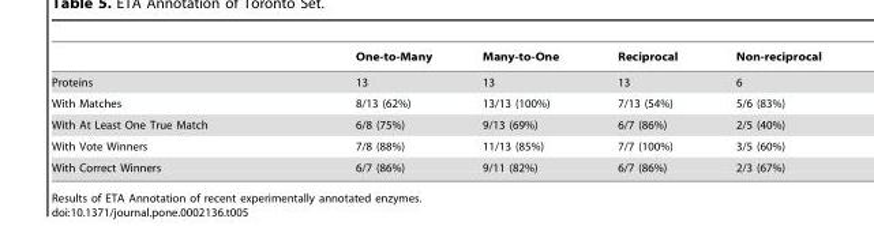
<table><thead><tr><td></td><td>One-to-Many</td><td>Many-to-One</td><td>Reciprocal</td><td>Non-reciprocal</td></tr></thead><tbody><tr><td>Proteins</td><td>13</td><td>13</td><td>13</td><td>6</td></tr><tr><td>With Matches</td><td>8/13 (62%)</td><td>13/13 (100%)</td><td>7/13 (54%)</td><td>5/6 (83%)</td></tr><tr><td>With At Least One True Match</td><td>6/8 (75%)</td><td>9/13 (69%)</td><td>6/7 (86%)</td><td>2/5 (40%)</td></tr><tr><td>With Vote Winners</td><td>7/8 (88%)</td><td>11/13 (85%)</td><td>7/7 (100%)</td><td>3/5 (60%)</td></tr><tr><td>With Correct Winners</td><td>6/7 (86%)</td><td>9/11 (82%)</td><td>6/7 (86%)</td><td>2/3 (67%)</td></tr></tbody></table>